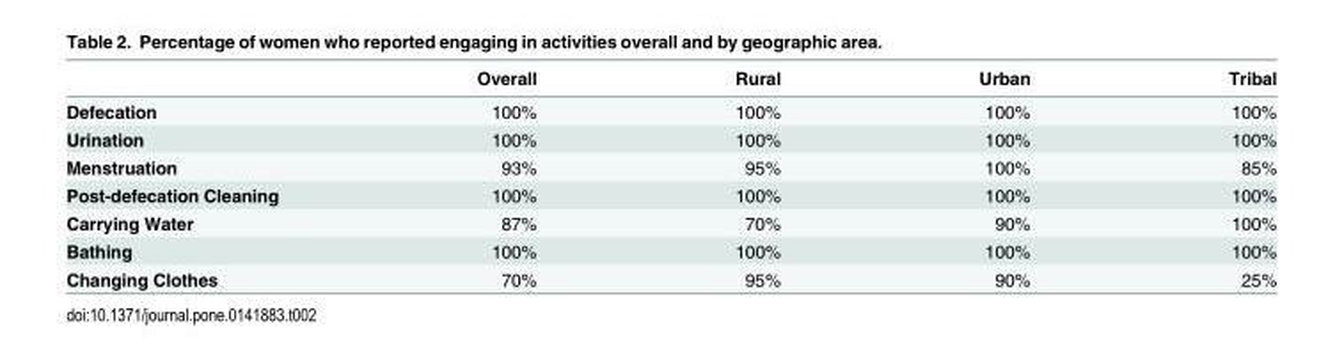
<table><thead><tr><td></td><td>Overall</td><td>Rural</td><td>Urban</td><td>Tribal</td></tr></thead><tbody><tr><td>Defecation</td><td>100%</td><td>100%</td><td>100%</td><td>100%</td></tr><tr><td>Urination</td><td>100%</td><td>100%</td><td>100%</td><td>100%</td></tr><tr><td>Menstruation</td><td>93%</td><td>95%</td><td>100%</td><td>85%</td></tr><tr><td>Post-defecation Cleaning</td><td>100%</td><td>100%</td><td>100%</td><td>100%</td></tr><tr><td>Carrying Water</td><td>87%</td><td>70%</td><td>90%</td><td>100%</td></tr><tr><td>Bathing</td><td>100%</td><td>100%</td><td>100%</td><td>100%</td></tr><tr><td>Changing Clothes</td><td>70%</td><td>95%</td><td>90%</td><td>25%</td></tr></tbody></table>